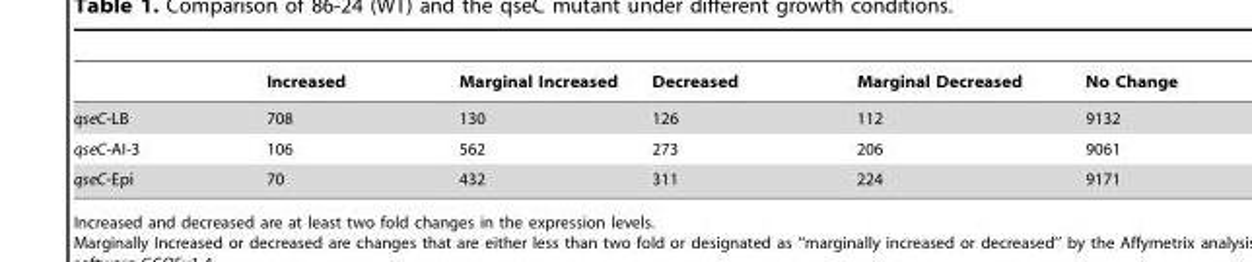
<table><thead><tr><td></td><td>Increased</td><td>Marginal Increased</td><td>Decreased</td><td>Marginal Decreased</td><td>No Change</td></tr></thead><tbody><tr><td>qseC-LB</td><td>708</td><td>130</td><td>126</td><td>112</td><td>9132</td></tr><tr><td>qseC-AI-3</td><td>106</td><td>562</td><td>273</td><td>206</td><td>9061</td></tr><tr><td>qseC-Epi</td><td>70</td><td>432</td><td>311</td><td>224</td><td>9171</td></tr></tbody></table>